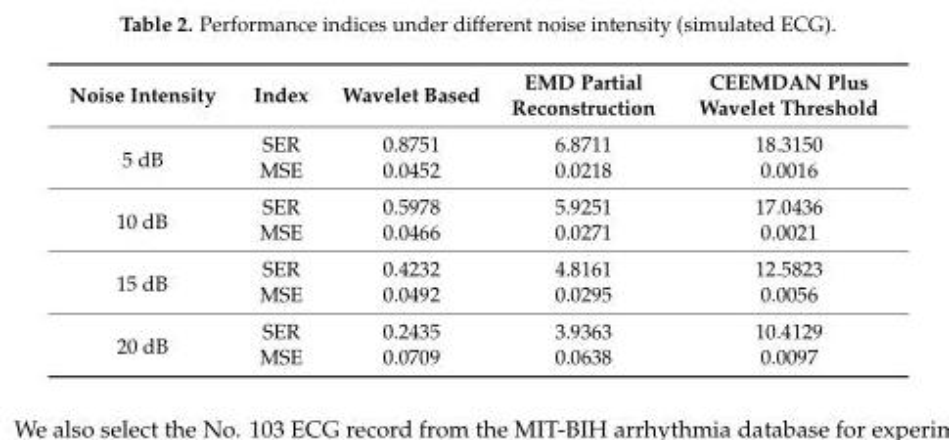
<table><thead><tr><td>Noise Intensity</td><td>Index</td><td>Wavelet Based</td><td>EMD Partial Reconstruction</td><td>CEEMDAN Plus Wavelet Threshold</td></tr></thead><tbody><tr><td rowspan="2">5 dB</td><td>SER</td><td>0.8751</td><td>6.8711</td><td>18.3150</td></tr><tr><td>MSE</td><td>0.0452</td><td>0.0218</td><td>0.0016</td></tr><tr><td rowspan="2">10 dB</td><td>SER</td><td>0.5978</td><td>5.9251</td><td>17.0436</td></tr><tr><td>MSE</td><td>0.0466</td><td>0.0271</td><td>0.0021</td></tr><tr><td rowspan="2">15 dB</td><td>SER</td><td>0.4232</td><td>4.8161</td><td>12.5823</td></tr><tr><td>MSE</td><td>0.0492</td><td>0.0295</td><td>0.0056</td></tr><tr><td rowspan="2">20 dB</td><td>SER</td><td>0.2435</td><td>3.9363</td><td>10.4129</td></tr><tr><td>MSE</td><td>0.0709</td><td>0.0638</td><td>0.0097</td></tr></tbody></table>